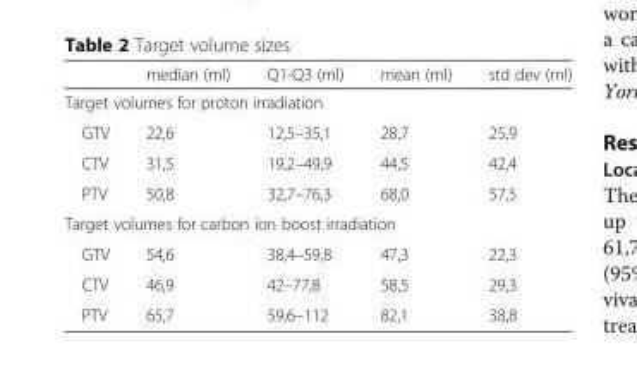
<table><thead><tr><td></td><td>median (ml)</td><td>Q1-Q3 (ml)</td><td>mean (ml)</td><td>std dev (ml)</td></tr></thead><tbody><tr><td colspan="5">Target volumes for proton irradiation</td></tr><tr><td>GTV</td><td>22,6</td><td>12,5–35,1</td><td>28,7</td><td>25,9</td></tr><tr><td>CTV</td><td>31,5</td><td>19,2–49,9</td><td>44,5</td><td>42,4</td></tr><tr><td>PTV</td><td>50,8</td><td>32,7–76,3</td><td>68,0</td><td>57,5</td></tr><tr><td colspan="5">Target volumes for carbon ion boost irradiation</td></tr><tr><td>GTV</td><td>54,6</td><td>38,4–59,8</td><td>47,3</td><td>22,3</td></tr><tr><td>CTV</td><td>46,9</td><td>42–77,8</td><td>58,5</td><td>29,3</td></tr><tr><td>PTV</td><td>65,7</td><td>59,6–112</td><td>82,1</td><td>38,8</td></tr></tbody></table>